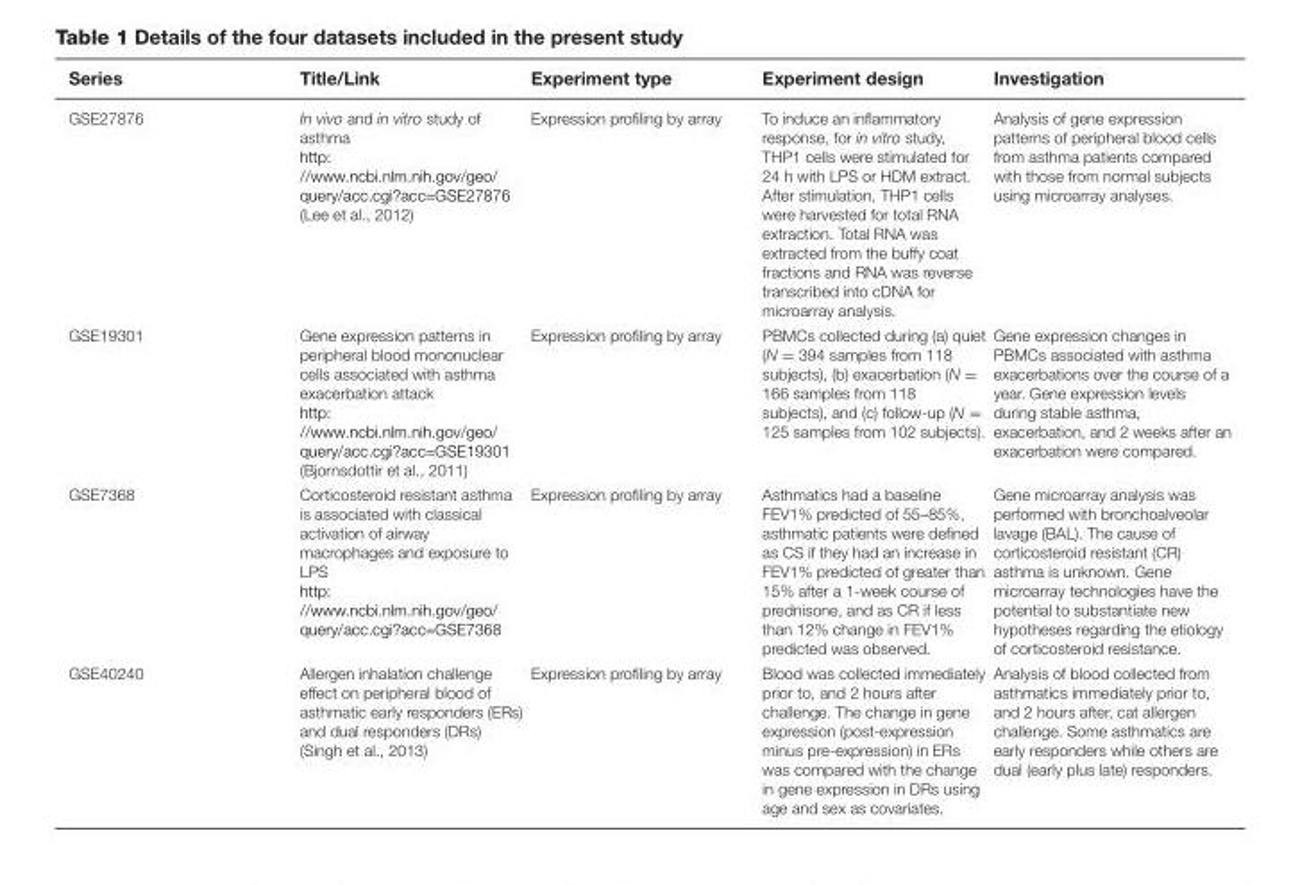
<table><thead><tr><td>Series</td><td>Title/Link</td><td>Experiment type</td><td>Experiment design</td><td>Investigation</td></tr></thead><tbody><tr><td>GSE27876</td><td>In vivo and in vitro study of asthma http: //www.ncbi.nlm.nih.gov/geo/ query/acc.cgi?acc=GSE27876 (Lee et al., 2012)</td><td>Expression profiling by array</td><td>To induce an inflammatory response, for in vitro study, THP1 cells were stimulated for 24 h with LPS or HDM extract. After stimulation, THP1 cells were harvested for total RNA extraction. Total RNA was extracted from the buffy coat fractions and RNA was reverse transcribed into cDNA for microarray analysis.</td><td>Analysis of gene expression patterns of peripheral blood cells from asthma patients compared with those from normal subjects using microarray analyses.</td></tr><tr><td>GSE19301</td><td>Gene expression patterns in peripheral blood mononuclear cells associated with asthma exacerbation attack http: //www.ncbi.nlm.nih.gov/geo/ query/acc.cgi?acc=GSE19301 (Bjornsdottir et al., 2011)</td><td>Expression profiling by array</td><td>PBMCs collected during (a) quiet (N = 394 samples from 118 subjects), (b) exacerbation (N = 166 samples from 118 subjects), and (c) follow-up (N = 125 samples from 102 subjects).</td><td>Gene expression changes in PBMCs associated with asthma exacerbations over the course of a year. Gene expression levels during stable asthma, exacerbation, and 2 weeks after an exacerbation were compared.</td></tr><tr><td>GSE7368</td><td>Corticosteroid resistant asthma is associated with classical activation of airway macrophages and exposure to LPS http: //www.ncbi.nlm.nih.gov/geo/ query/acc.cgi?acc=GSE7368</td><td>Expression profiling by array</td><td>Asthmatics had a baseline FEV1% predicted of 55–85%, asthmatic patients were defined as CS if they had an increase in FEV1% predicted of greater than 15% after a 1-week course of prednisone, and as CR if less than 12% change in FEV1% predicted was observed.</td><td>Gene microarray analysis was performed with bronchoalveolar lavage (BAL). The cause of corticosteroid resistant (CR) asthma is unknown. Gene microarray technologies have the potential to substantiate new hypotheses regarding the etiology of corticosteroid resistance.</td></tr><tr><td>GSE40240</td><td>Allergen inhalation challenge effect on peripheral blood of asthmatic early responders (ERs) and dual responders (DRs) (Singh et al., 2013)</td><td>Expression profiling by array</td><td>Blood was collected immediately prior to, and 2 hours after challenge. The change in gene expression (post-expression minus pre-expression) in ERs was compared with the change in gene expression in DRs using age and sex as covariates.</td><td>Analysis of blood collected from asthmatics immediately prior to, and 2 hours after, cat allergen challenge. Some asthmatics are early responders while others are dual (early plus late) responders.</td></tr></tbody></table>